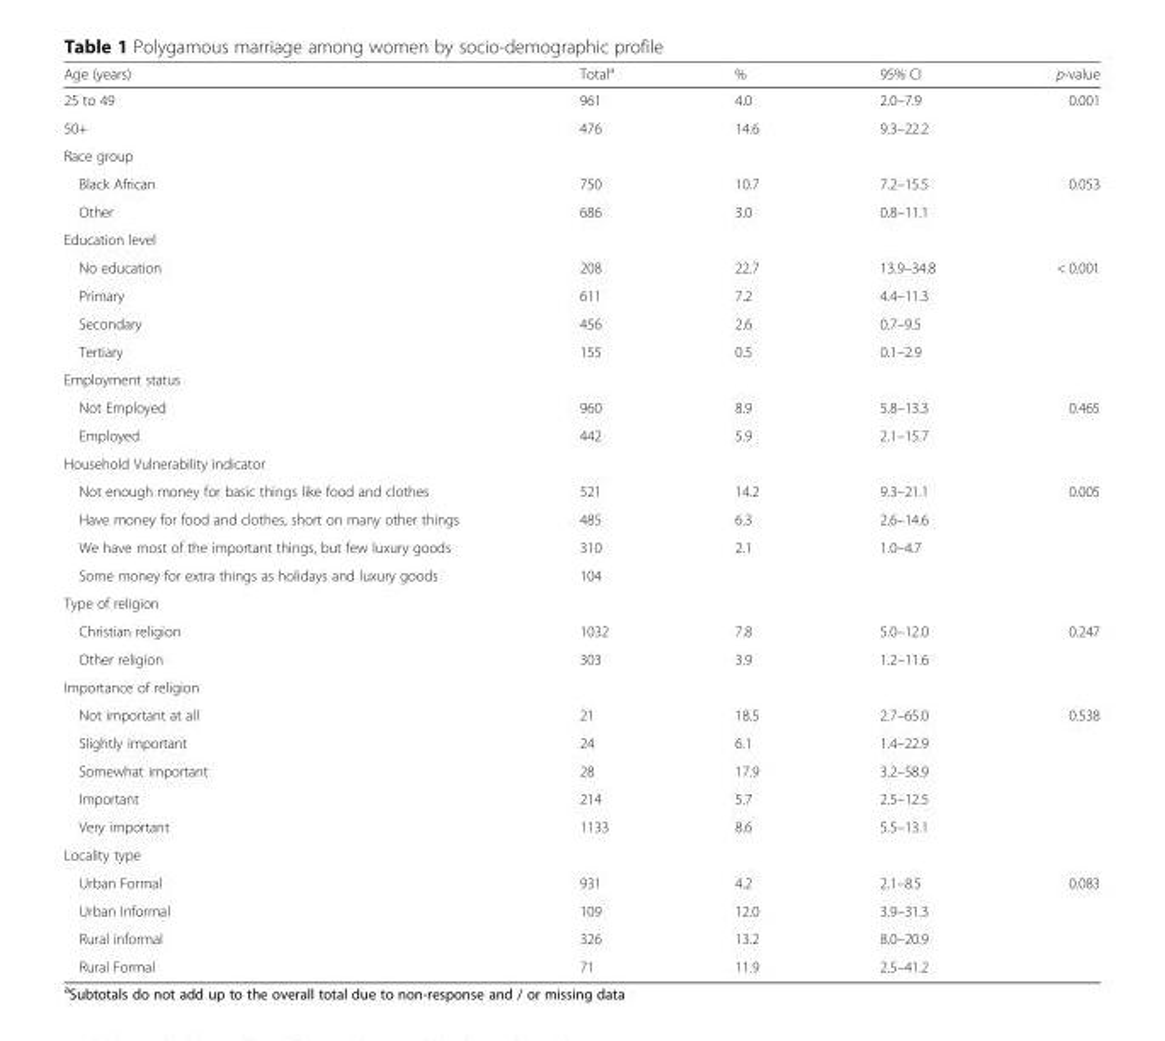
<table><thead><tr><td>Age (years)</td><td>Total<sup>a</sup></td><td>%</td><td>95% CI</td><td>p-value</td></tr></thead><tbody><tr><td>25 to 49</td><td>961</td><td>4.0</td><td>2.0–7.9</td><td>0.001</td></tr><tr><td>50+</td><td>476</td><td>14.6</td><td>9.3–22.2</td><td></td></tr><tr><td colspan="5">Race group</td></tr><tr><td>Black African</td><td>750</td><td>10.7</td><td>7.2–15.5</td><td>0.053</td></tr><tr><td>Other</td><td>686</td><td>3.0</td><td>0.8–11.1</td><td></td></tr><tr><td colspan="5">Education level</td></tr><tr><td>No education</td><td>208</td><td>22.7</td><td>13.9–34.8</td><td>&lt; 0.001</td></tr><tr><td>Primary</td><td>611</td><td>7.2</td><td>4.4–11.3</td><td></td></tr><tr><td>Secondary</td><td>456</td><td>2.6</td><td>0.7–9.5</td><td></td></tr><tr><td>Tertiary</td><td>155</td><td>0.5</td><td>0.1–2.9</td><td></td></tr><tr><td colspan="5">Employment status</td></tr><tr><td>Not Employed</td><td>960</td><td>8.9</td><td>5.8–13.3</td><td>0.465</td></tr><tr><td>Employed</td><td>442</td><td>5.9</td><td>2.1–15.7</td><td></td></tr><tr><td colspan="5">Household Vulnerability indicator</td></tr><tr><td>Not enough money for basic things like food and clothes</td><td>521</td><td>14.2</td><td>9.3–21.1</td><td>0.005</td></tr><tr><td>Have money for food and clothes, short on many other things</td><td>485</td><td>6.3</td><td>2.6–14.6</td><td></td></tr><tr><td>We have most of the important things, but few luxury goods</td><td>310</td><td>2.1</td><td>1.0–4.7</td><td></td></tr><tr><td>Some money for extra things as holidays and luxury goods</td><td>104</td><td></td><td></td><td></td></tr><tr><td colspan="5">Type of religion</td></tr><tr><td>Christian religion</td><td>1032</td><td>7.8</td><td>5.0–12.0</td><td>0.247</td></tr><tr><td>Other religion</td><td>303</td><td>3.9</td><td>1.2–11.6</td><td></td></tr><tr><td colspan="5">Importance of religion</td></tr><tr><td>Not important at all</td><td>21</td><td>18.5</td><td>2.7–65.0</td><td>0.538</td></tr><tr><td>Slightly important</td><td>24</td><td>6.1</td><td>1.4–22.9</td><td></td></tr><tr><td>Somewhat important</td><td>28</td><td>17.9</td><td>3.2–58.9</td><td></td></tr><tr><td>Important</td><td>214</td><td>5.7</td><td>2.5–12.5</td><td></td></tr><tr><td>Very important</td><td>1133</td><td>8.6</td><td>5.5–13.1</td><td></td></tr><tr><td colspan="5">Locality type</td></tr><tr><td>Urban Formal</td><td>931</td><td>4.2</td><td>2.1–8.5</td><td>0.083</td></tr><tr><td>Urban Informal</td><td>109</td><td>12.0</td><td>3.9–31.3</td><td></td></tr><tr><td>Rural informal</td><td>326</td><td>13.2</td><td>8.0–20.9</td><td></td></tr><tr><td>Rural Formal</td><td>71</td><td>11.9</td><td>2.5–41.2</td><td></td></tr></tbody></table>